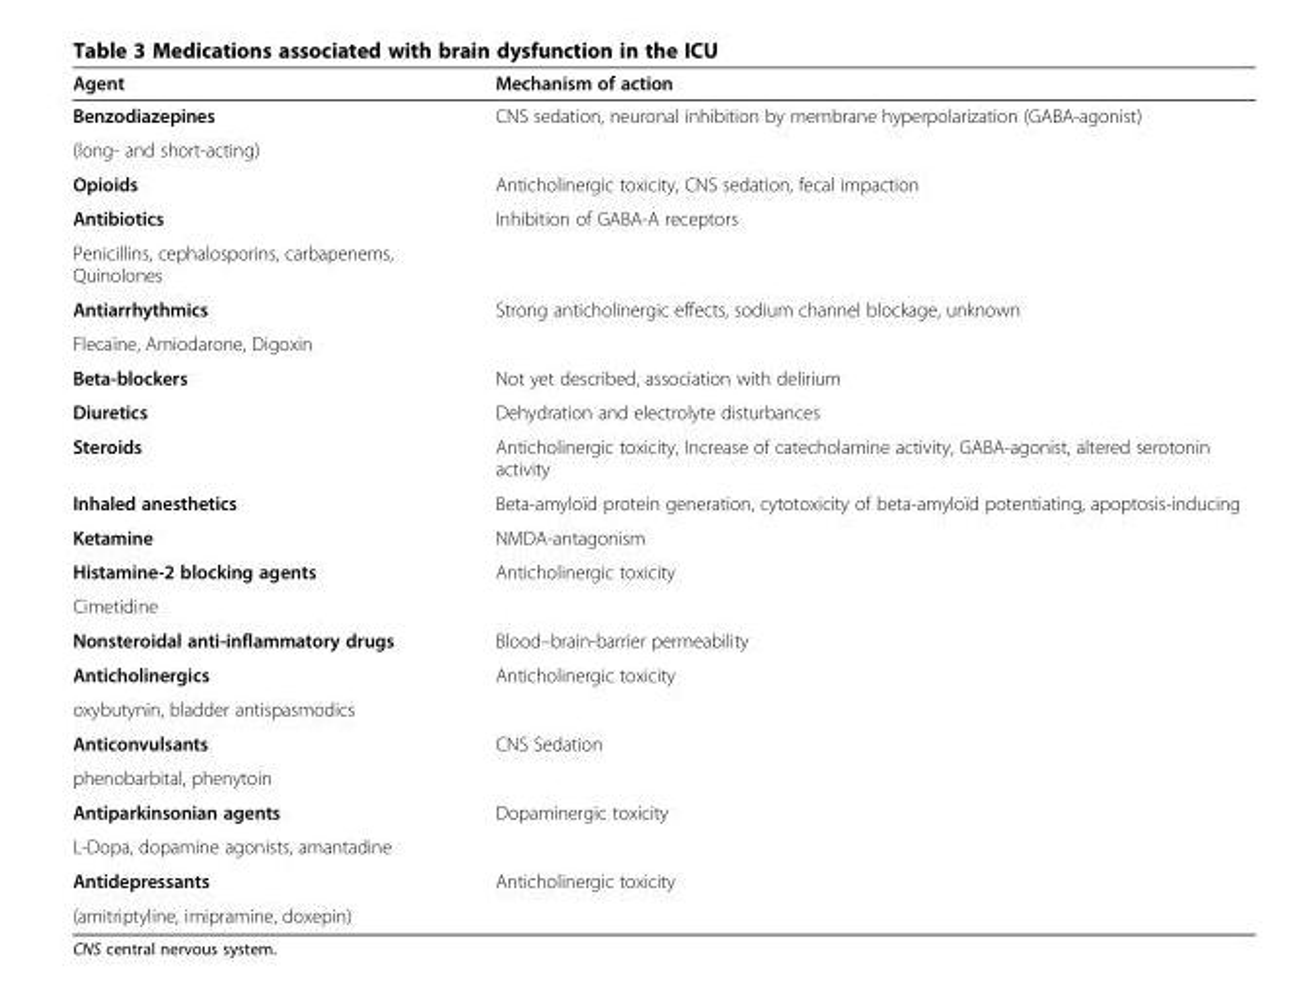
<table><thead><tr><td>Agent</td><td>Mechanism of action</td></tr></thead><tbody><tr><td>Benzodiazepines</td><td rowspan="2">CNS sedation, neuronal inhibition by membrane hyperpolarization (GABA-agonist)</td></tr><tr><td>(long- and short-acting)</td></tr><tr><td>Opioids</td><td>Anticholinergic toxicity, CNS sedation, fecal impaction</td></tr><tr><td>Antibiotics</td><td rowspan="2">Inhibition of GABA-A receptors</td></tr><tr><td>Penicillins, cephalosporins, carbapenems, Quinolones</td></tr><tr><td>Antiarrhythmics</td><td rowspan="2">Strong anticholinergic effects, sodium channel blockage, unknown</td></tr><tr><td>Flecaïne, Amiodarone, Digoxin</td></tr><tr><td>Beta-blockers</td><td>Not yet described, association with delirium</td></tr><tr><td>Diuretics</td><td>Dehydration and electrolyte disturbances</td></tr><tr><td>Steroids</td><td>Anticholinergic toxicity, Increase of catecholamine activity, GABA-agonist, altered serotonin activity</td></tr><tr><td>Inhaled anesthetics</td><td>Beta-amyloïd protein generation, cytotoxicity of beta-amyloïd potentiating, apoptosis-inducing</td></tr><tr><td>Ketamine</td><td>NMDA-antagonism</td></tr><tr><td>Histamine-2 blocking agents</td><td rowspan="2">Anticholinergic toxicity</td></tr><tr><td>Cimetidine</td></tr><tr><td>Nonsteroidal anti-inflammatory drugs</td><td>Blood–brain-barrier permeability</td></tr><tr><td>Anticholinergics</td><td rowspan="2">Anticholinergic toxicity</td></tr><tr><td>oxybutynin, bladder antispasmodics</td></tr><tr><td>Anticonvulsants</td><td rowspan="2">CNS Sedation</td></tr><tr><td>phenobarbital, phenytoin</td></tr><tr><td>Antiparkinsonian agents</td><td rowspan="2">Dopaminergic toxicity</td></tr><tr><td>L-Dopa, dopamine agonists, amantadine</td></tr><tr><td>Antidepressants</td><td>Anticholinergic toxicity</td></tr><tr><td>(amitriptyline, imipramine, doxepin)</td><td></td></tr></tbody></table>